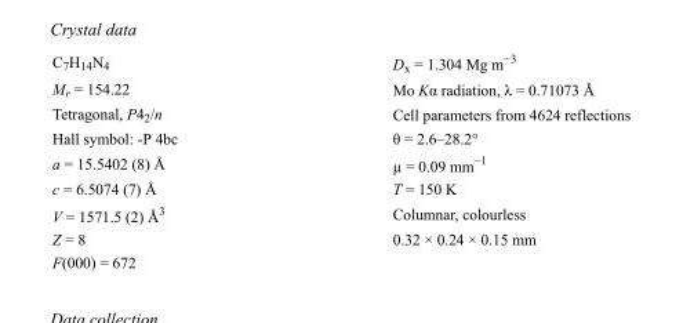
<table><tbody><tr><td>C<sub>7</sub>H<sub>14</sub>N<sub>4</sub></td><td>D<sub>x</sub> = 1.304 Mg m<sup>−3</sup></td></tr><tr><td>M<sub>r</sub> = 154.22</td><td>Mo Kα radiation, λ = 0.71073 Å</td></tr><tr><td>Tetragonal, P4<sub>2</sub>/n</td><td>Cell parameters from 4624 reflections</td></tr><tr><td>Hall symbol: -P 4bc</td><td>θ = 2.6–28.2°</td></tr><tr><td>a = 15.5402 (8) Å</td><td>µ = 0.09 mm<sup>−1</sup></td></tr><tr><td>c = 6.5074 (7) Å</td><td>T = 150 K</td></tr><tr><td>V = 1571.5 (2) Å<sup>3</sup></td><td>Columnar, colourless</td></tr><tr><td>Z = 8</td><td>0.32 × 0.24 × 0.15 mm</td></tr><tr><td>F(000) = 672</td><td></td></tr></tbody></table>